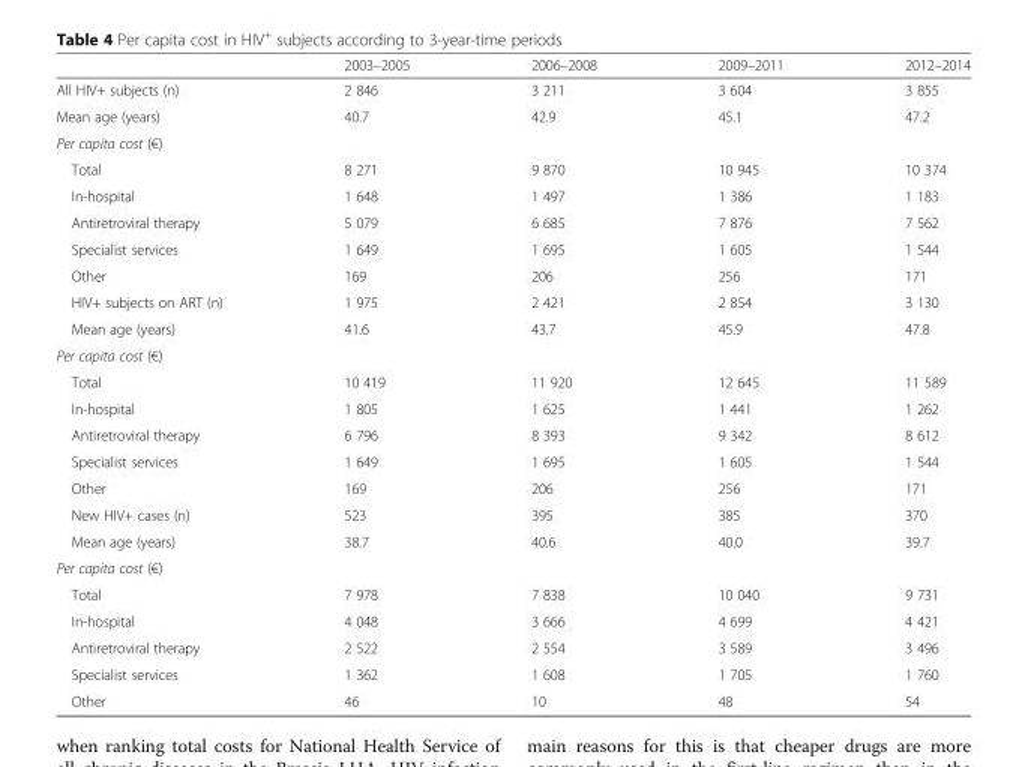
<table><thead><tr><td></td><td>2003–2005</td><td>2006–2008</td><td>2009–2011</td><td>2012–2014</td></tr></thead><tbody><tr><td>All HIV+ subjects (n)</td><td>2 846</td><td>3 211</td><td>3 604</td><td>3 855</td></tr><tr><td>Mean age (years)</td><td>40.7</td><td>42.9</td><td>45.1</td><td>47.2</td></tr><tr><td colspan="5">Per capita cost (€)</td></tr><tr><td>Total</td><td>8 271</td><td>9 870</td><td>10 945</td><td>10 374</td></tr><tr><td>In-hospital</td><td>1 648</td><td>1 497</td><td>1 386</td><td>1 183</td></tr><tr><td>Antiretroviral therapy</td><td>5 079</td><td>6 685</td><td>7 876</td><td>7 562</td></tr><tr><td>Specialist services</td><td>1 649</td><td>1 695</td><td>1 605</td><td>1 544</td></tr><tr><td>Other</td><td>169</td><td>206</td><td>256</td><td>171</td></tr><tr><td>HIV+ subjects on ART (n)</td><td>1 975</td><td>2 421</td><td>2 854</td><td>3 130</td></tr><tr><td>Mean age (years)</td><td>41.6</td><td>43.7</td><td>45.9</td><td>47.8</td></tr><tr><td colspan="5">Per capita cost (€)</td></tr><tr><td>Total</td><td>10 419</td><td>11 920</td><td>12 645</td><td>11 589</td></tr><tr><td>In-hospital</td><td>1 805</td><td>1 625</td><td>1 441</td><td>1 262</td></tr><tr><td>Antiretroviral therapy</td><td>6 796</td><td>8 393</td><td>9 342</td><td>8 612</td></tr><tr><td>Specialist services</td><td>1 649</td><td>1 695</td><td>1 605</td><td>1 544</td></tr><tr><td>Other</td><td>169</td><td>206</td><td>256</td><td>171</td></tr><tr><td>New HIV+ cases (n)</td><td>523</td><td>395</td><td>385</td><td>370</td></tr><tr><td>Mean age (years)</td><td>38.7</td><td>40.6</td><td>40.0</td><td>39.7</td></tr><tr><td colspan="5">Per capita cost (€)</td></tr><tr><td>Total</td><td>7 978</td><td>7 838</td><td>10 040</td><td>9 731</td></tr><tr><td>In-hospital</td><td>4 048</td><td>3 666</td><td>4 699</td><td>4 421</td></tr><tr><td>Antiretroviral therapy</td><td>2 522</td><td>2 554</td><td>3 589</td><td>3 496</td></tr><tr><td>Specialist services</td><td>1 362</td><td>1 608</td><td>1 705</td><td>1 760</td></tr><tr><td>Other</td><td>46</td><td>10</td><td>48</td><td>54</td></tr></tbody></table>